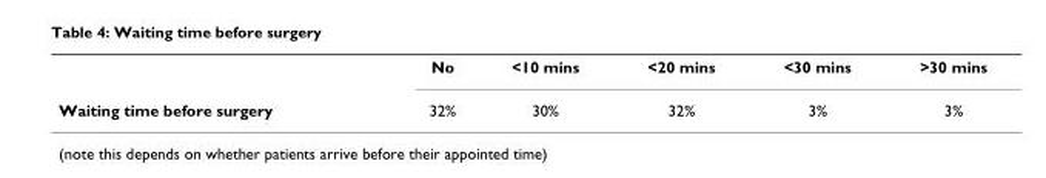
<table><thead><tr><td></td><td>No</td><td>&lt;10 mins</td><td>&lt;20 mins</td><td>&lt;30 mins</td><td>&gt;30 mins</td></tr></thead><tbody><tr><td>Waiting time before surgery</td><td>32%</td><td>30%</td><td>32%</td><td>3%</td><td>3%</td></tr></tbody></table>